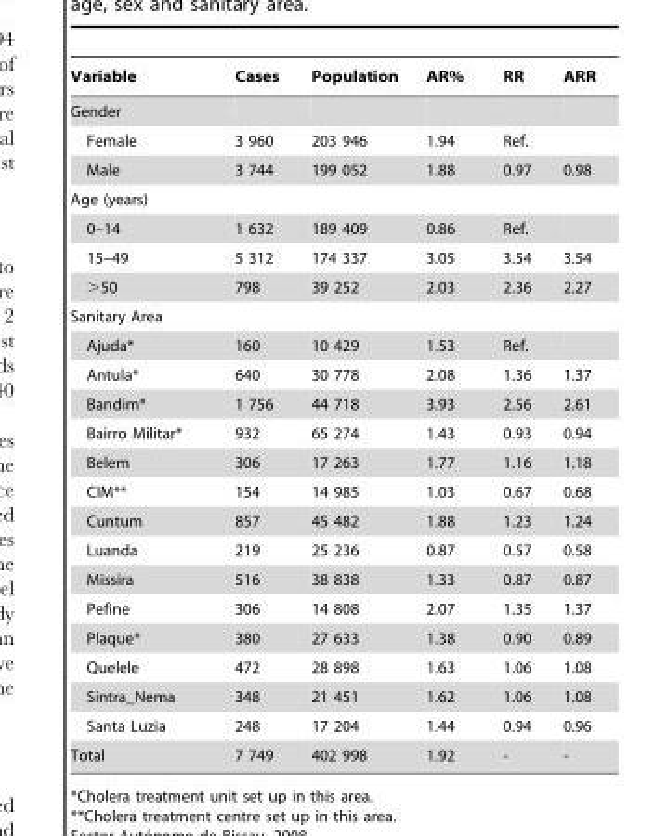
<table><thead><tr><td>Variable</td><td>Cases</td><td>Population</td><td>AR%</td><td>RR</td><td>ARR</td></tr></thead><tbody><tr><td colspan="6">Gender</td></tr><tr><td>Female</td><td>3 960</td><td>203 946</td><td>1.94</td><td>Ref.</td><td></td></tr><tr><td>Male</td><td>3 744</td><td>199 052</td><td>1.88</td><td>0.97</td><td>0.98</td></tr><tr><td colspan="6">Age (years)</td></tr><tr><td>0–14</td><td>1 632</td><td>189 409</td><td>0.86</td><td>Ref.</td><td></td></tr><tr><td>15–49</td><td>5 312</td><td>174 337</td><td>3.05</td><td>3.54</td><td>3.54</td></tr><tr><td>&gt;50</td><td>798</td><td>39 252</td><td>2.03</td><td>2.36</td><td>2.27</td></tr><tr><td colspan="6">Sanitary Area</td></tr><tr><td>Ajuda*</td><td>160</td><td>10 429</td><td>1.53</td><td>Ref.</td><td></td></tr><tr><td>Antula*</td><td>640</td><td>30 778</td><td>2.08</td><td>1.36</td><td>1.37</td></tr><tr><td>Bandim*</td><td>1 756</td><td>44 718</td><td>3.93</td><td>2.56</td><td>2.61</td></tr><tr><td>Bairro Militar*</td><td>932</td><td>65 274</td><td>1.43</td><td>0.93</td><td>0.94</td></tr><tr><td>Belem</td><td>306</td><td>17 263</td><td>1.77</td><td>1.16</td><td>1.18</td></tr><tr><td>CIM**</td><td>154</td><td>14 985</td><td>1.03</td><td>0.67</td><td>0.68</td></tr><tr><td>Cuntum</td><td>857</td><td>45 482</td><td>1.88</td><td>1.23</td><td>1.24</td></tr><tr><td>Luanda</td><td>219</td><td>25 236</td><td>0.87</td><td>0.57</td><td>0.58</td></tr><tr><td>Missira</td><td>516</td><td>38 838</td><td>1.33</td><td>0.87</td><td>0.87</td></tr><tr><td>Pefine</td><td>306</td><td>14 808</td><td>2.07</td><td>1.35</td><td>1.37</td></tr><tr><td>Plaque*</td><td>380</td><td>27 633</td><td>1.38</td><td>0.90</td><td>0.89</td></tr><tr><td>Quelele</td><td>472</td><td>28 898</td><td>1.63</td><td>1.06</td><td>1.08</td></tr><tr><td>Sintra_Nema</td><td>348</td><td>21 451</td><td>1.62</td><td>1.06</td><td>1.08</td></tr><tr><td>Santa Luzia</td><td>248</td><td>17 204</td><td>1.44</td><td>0.94</td><td>0.96</td></tr><tr><td>Total</td><td>7 749</td><td>402 998</td><td>1.92</td><td>-</td><td>-</td></tr></tbody></table>